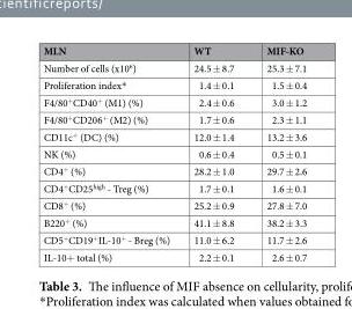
<table><thead><tr><td>MLN</td><td>WT</td><td>MIF-KO</td></tr></thead><tbody><tr><td>Number of cells (x10<sup>6</sup>)</td><td>24.5 ± 8.7</td><td>25.3 ± 7.1</td></tr><tr><td>Proliferation index*</td><td>1.4 ± 0.1</td><td>1.5 ± 0.4</td></tr><tr><td>F4/80<sup>+</sup>CD40<sup>+</sup> (M1) (%)</td><td>2.4 ± 0.6</td><td>3.0 ± 1.2</td></tr><tr><td>F4/80<sup>+</sup>CD206<sup>+</sup> (M2) (%)</td><td>1.7 ± 0.6</td><td>2.3 ± 1.1</td></tr><tr><td>CD11c<sup>+</sup> (DC) (%)</td><td>12.0 ± 1.4</td><td>13.2 ± 3.6</td></tr><tr><td>NK (%)</td><td>0.6 ± 0.4</td><td>0.5 ± 0.1</td></tr><tr><td>CD4<sup>+</sup> (%)</td><td>28.2 ± 1.0</td><td>29.7 ± 2.6</td></tr><tr><td>CD4<sup>+</sup>CD25<sup>high</sup> - Treg (%)</td><td>1.7 ± 0.1</td><td>1.6 ± 0.1</td></tr><tr><td>CD8<sup>+</sup> (%)</td><td>25.2 ± 0.9</td><td>27.8 ± 7.0</td></tr><tr><td>B220<sup>+</sup> (%)</td><td>41.1 ± 8.8</td><td>38.2 ± 3.3</td></tr><tr><td>CD5<sup>+</sup>CD19<sup>+</sup>IL-10<sup>+</sup> - Breg (%)</td><td>11.0 ± 6.2</td><td>11.7 ± 2.6</td></tr><tr><td>IL-10+ total (%)</td><td>2.2 ± 0.1</td><td>2.6 ± 0.7</td></tr></tbody></table>